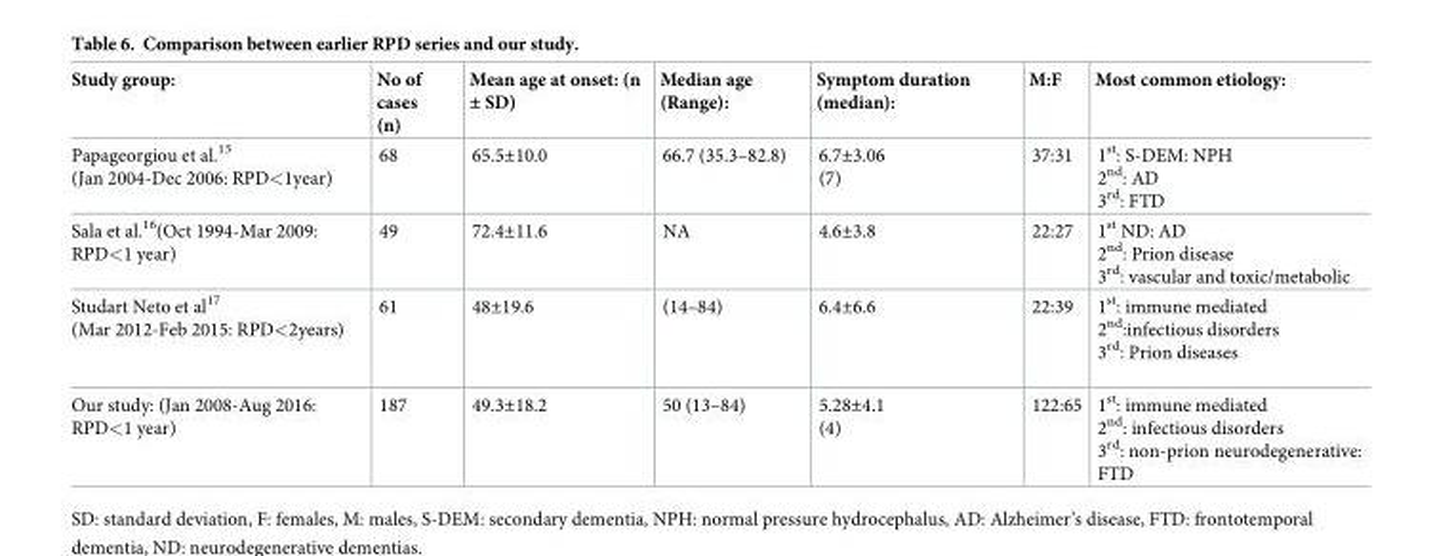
<table><thead><tr><td>Study group:</td><td>No of cases (n)</td><td>Mean age at onset: (n ± SD)</td><td>Median age (Range):</td><td>Symptom duration (median):</td><td>M:F</td><td>Most common etiology:</td></tr></thead><tbody><tr><td>Papageorgiou et al.<sup>15</sup> (Jan 2004-Dec 2006: RPD&lt;1year)</td><td>68</td><td>65.5±10.0</td><td>66.7 (35.3–82.8)</td><td>6.7±3.06 (7)</td><td>37:31</td><td>1<sup>st</sup>: S-DEM: NPH 2<sup>nd</sup>: AD 3<sup>rd</sup>: FTD</td></tr><tr><td>Sala et al.<sup>16</sup>(Oct 1994-Mar 2009: RPD&lt;1 year)</td><td>49</td><td>72.4±11.6</td><td>NA</td><td>4.6±3.8</td><td>22:27</td><td>1<sup>st</sup> ND: AD 2<sup>nd</sup>: Prion disease 3<sup>rd</sup>: vascular and toxic/metabolic</td></tr><tr><td>Studart Neto et al<sup>17</sup> (Mar 2012-Feb 2015: RPD&lt;2years)</td><td>61</td><td>48±19.6</td><td>(14–84)</td><td>6.4±6.6</td><td>22:39</td><td>1<sup>st</sup>: immune mediated 2<sup>nd</sup>:infectious disorders 3<sup>rd</sup>: Prion diseases</td></tr><tr><td>Our study: (Jan 2008-Aug 2016: RPD&lt;1 year)</td><td>187</td><td>49.3±18.2</td><td>50 (13–84)</td><td>5.28±4.1 (4)</td><td>122:65</td><td>1<sup>st</sup>: immune mediated 2<sup>nd</sup>: infectious disorders 3<sup>rd</sup>: non-prion neurodegenerative: FTD</td></tr></tbody></table>